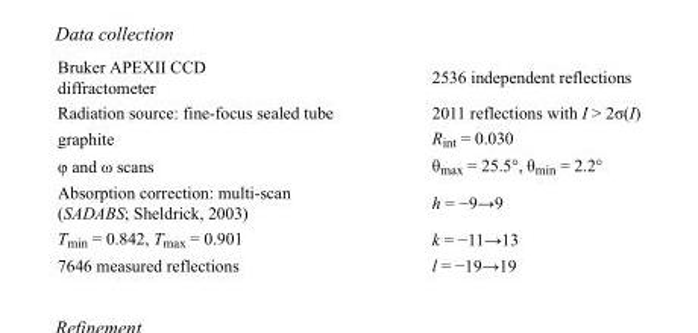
<table><tbody><tr><td>Bruker APEXII CCD diffractometer</td><td>2536 independent reflections</td></tr><tr><td>Radiation source: fine-focus sealed tube</td><td>2011 reflections with I &gt; 2σ(I)</td></tr><tr><td>graphite</td><td>R<sub>int</sub> = 0.030</td></tr><tr><td>φ and ω scans</td><td>θ<sub>max</sub> = 25.5°, θ<sub>min</sub> = 2.2°</td></tr><tr><td>Absorption correction: multi-scan (SADABS; Sheldrick, 2003)</td><td>h = −9→9</td></tr><tr><td>T<sub>min</sub> = 0.842, T<sub>max</sub> = 0.901</td><td>k = −11→13</td></tr><tr><td>7646 measured reflections</td><td>l = −19→19</td></tr></tbody></table>